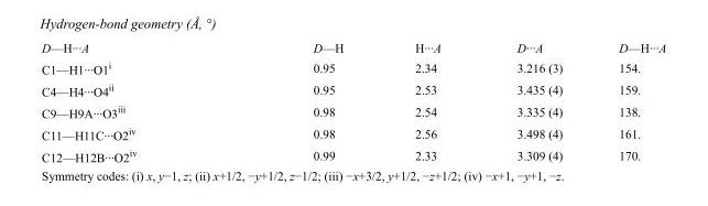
<table><tbody><tr><td>D—H···A</td><td>D—H</td><td>H···A</td><td>D···A</td><td>D—H···A</td></tr><tr><td>C1—H1···O1<sup>i</sup></td><td>0.95</td><td>2.34</td><td>3.216 (3)</td><td>154.</td></tr><tr><td>C4—H4···O4<sup>ii</sup></td><td>0.95</td><td>2.53</td><td>3.435 (4)</td><td>159.</td></tr><tr><td>C9—H9A···O3<sup>iii</sup></td><td>0.98</td><td>2.54</td><td>3.335 (4)</td><td>138.</td></tr><tr><td>C11—H11C···O2<sup>iv</sup></td><td>0.98</td><td>2.56</td><td>3.498 (4)</td><td>161.</td></tr><tr><td>C12—H12B···O2<sup>iv</sup></td><td>0.99</td><td>2.33</td><td>3.309 (4)</td><td>170.</td></tr></tbody></table>